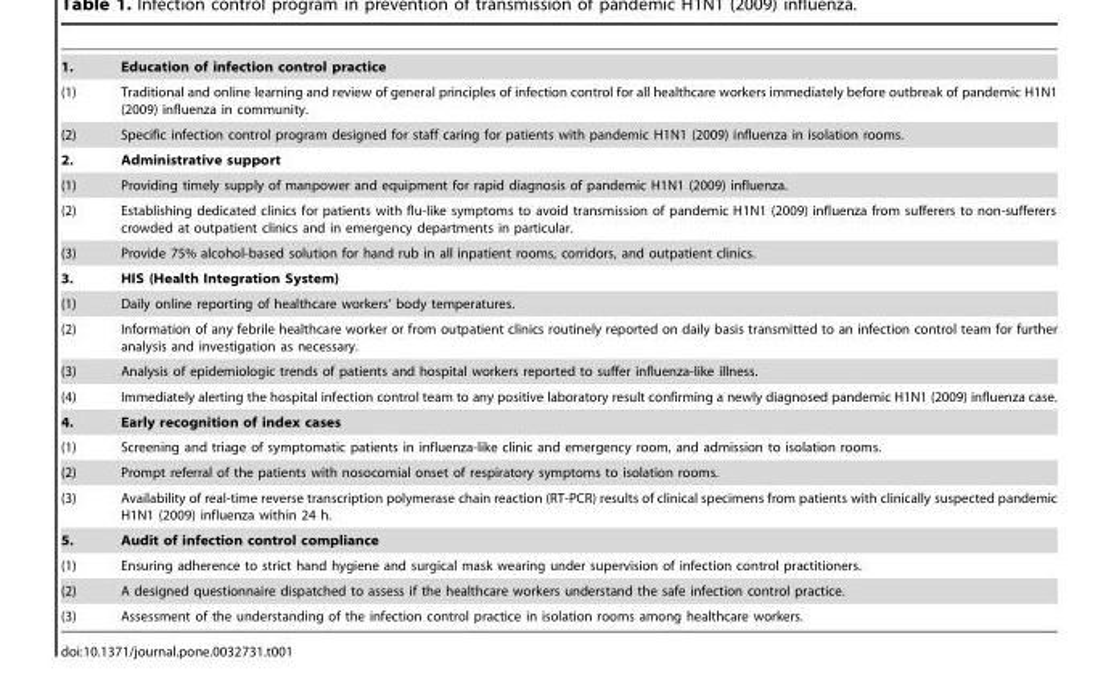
<table><tbody><tr><td>1.</td><td>Education of infection control practice</td></tr><tr><td>(1)</td><td>Traditional and online learning and review of general principles of infection control for all healthcare workers immediately before outbreak of pandemic H1N1 (2009) influenza in community.</td></tr><tr><td>(2)</td><td>Specific infection control program designed for staff caring for patients with pandemic H1N1 (2009) influenza in isolation rooms.</td></tr><tr><td>2.</td><td>Administrative support</td></tr><tr><td>(1)</td><td>Providing timely supply of manpower and equipment for rapid diagnosis of pandemic H1N1 (2009) influenza.</td></tr><tr><td>(2)</td><td>Establishing dedicated clinics for patients with flu-like symptoms to avoid transmission of pandemic H1N1 (2009) influenza from sufferers to non-sufferers crowded at outpatient clinics and in emergency departments in particular.</td></tr><tr><td>(3)</td><td>Provide 75% alcohol-based solution for hand rub in all inpatient rooms, corridors, and outpatient clinics.</td></tr><tr><td>3.</td><td>HIS (Health Integration System)</td></tr><tr><td>(1)</td><td>Daily online reporting of healthcare workers’ body temperatures.</td></tr><tr><td>(2)</td><td>Information of any febrile healthcare worker or from outpatient clinics routinely reported on daily basis transmitted to an infection control team for further analysis and investigation as necessary.</td></tr><tr><td>(3)</td><td>Analysis of epidemiologic trends of patients and hospital workers reported to suffer influenza-like illness.</td></tr><tr><td>(4)</td><td>Immediately alerting the hospital infection control team to any positive laboratory result confirming a newly diagnosed pandemic H1N1 (2009) influenza case.</td></tr><tr><td>4.</td><td>Early recognition of index cases</td></tr><tr><td>(1)</td><td>Screening and triage of symptomatic patients in influenza-like clinic and emergency room, and admission to isolation rooms.</td></tr><tr><td>(2)</td><td>Prompt referral of the patients with nosocomial onset of respiratory symptoms to isolation rooms.</td></tr><tr><td>(3)</td><td>Availability of real-time reverse transcription polymerase chain reaction (RT-PCR) results of clinical specimens from patients with clinically suspected pandemic H1N1 (2009) influenza within 24 h.</td></tr><tr><td>5.</td><td>Audit of infection control compliance</td></tr><tr><td>(1)</td><td>Ensuring adherence to strict hand hygiene and surgical mask wearing under supervision of infection control practitioners.</td></tr><tr><td>(2)</td><td>A designed questionnaire dispatched to assess if the healthcare workers understand the safe infection control practice.</td></tr><tr><td>(3)</td><td>Assessment of the understanding of the infection control practice in isolation rooms among healthcare workers.</td></tr></tbody></table>